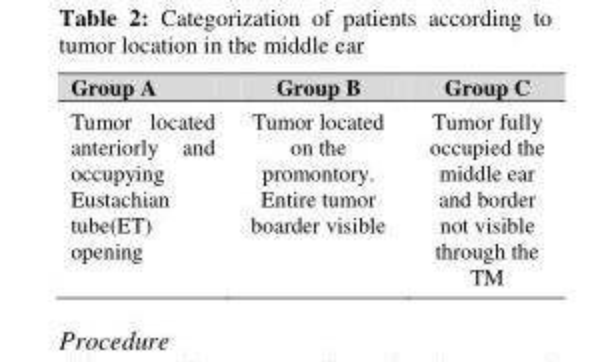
<table><thead><tr><td>Group A</td><td>Group B</td><td>Group C</td></tr></thead><tbody><tr><td>Tumor located anteriorly and occupying Eustachian tube(ET) opening</td><td>Tumor located on the promontory. Entire tumor boarder visible</td><td>Tumor fully occupied the middle ear and border not visible through the TM</td></tr></tbody></table>